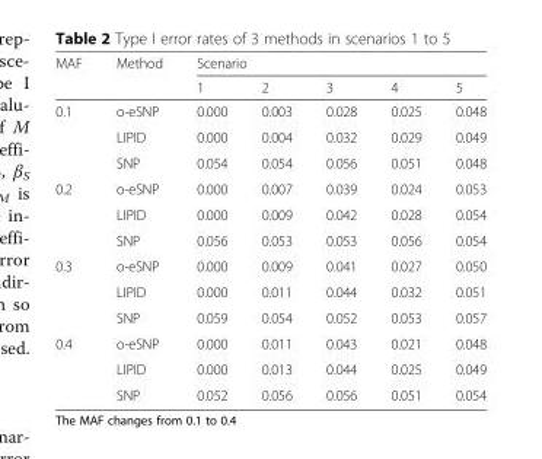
<table><thead><tr><td rowspan="2">MAF</td><td rowspan="2">Method</td><td colspan="5">Scenario</td></tr><tr><td>1</td><td>2</td><td>3</td><td>4</td><td>5</td></tr></thead><tbody><tr><td rowspan="3">0.1</td><td>o-eSNP</td><td>0.000</td><td>0.003</td><td>0.028</td><td>0.025</td><td>0.048</td></tr><tr><td>LIPID</td><td>0.000</td><td>0.004</td><td>0.032</td><td>0.029</td><td>0.049</td></tr><tr><td>SNP</td><td>0.054</td><td>0.054</td><td>0.056</td><td>0.051</td><td>0.048</td></tr><tr><td rowspan="3">0.2</td><td>o-eSNP</td><td>0.000</td><td>0.007</td><td>0.039</td><td>0.024</td><td>0.053</td></tr><tr><td>LIPID</td><td>0.000</td><td>0.009</td><td>0.042</td><td>0.028</td><td>0.054</td></tr><tr><td>SNP</td><td>0.056</td><td>0.053</td><td>0.053</td><td>0.056</td><td>0.054</td></tr><tr><td rowspan="3">0.3</td><td>o-eSNP</td><td>0.000</td><td>0.009</td><td>0.041</td><td>0.027</td><td>0.050</td></tr><tr><td>LIPID</td><td>0.000</td><td>0.011</td><td>0.044</td><td>0.032</td><td>0.051</td></tr><tr><td>SNP</td><td>0.059</td><td>0.054</td><td>0.052</td><td>0.053</td><td>0.057</td></tr><tr><td rowspan="3">0.4</td><td>o-eSNP</td><td>0.000</td><td>0.011</td><td>0.043</td><td>0.021</td><td>0.048</td></tr><tr><td>LIPID</td><td>0.000</td><td>0.013</td><td>0.044</td><td>0.025</td><td>0.049</td></tr><tr><td>SNP</td><td>0.052</td><td>0.056</td><td>0.056</td><td>0.051</td><td>0.054</td></tr></tbody></table>